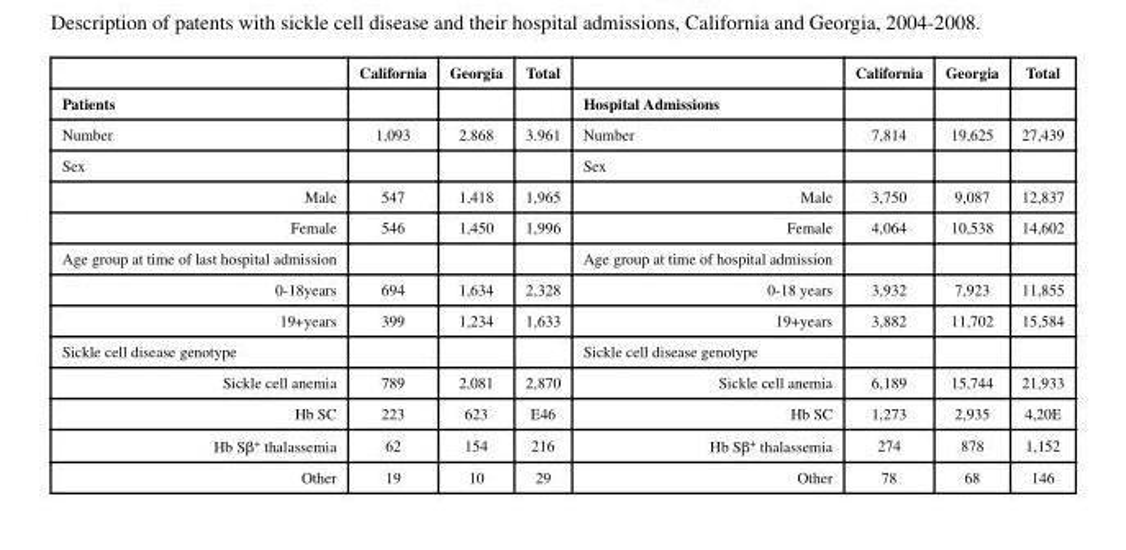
<table><thead><tr><td></td><td>California</td><td>Georgia</td><td>Total</td><td></td><td>California</td><td>Georgia</td><td>Total</td></tr></thead><tbody><tr><td>Patients</td><td></td><td></td><td></td><td>Hospital Admissions</td><td></td><td></td><td></td></tr><tr><td>Number</td><td>1,093</td><td>2.868</td><td>3.961</td><td>Number</td><td>7,814</td><td>19,625</td><td>27,439</td></tr><tr><td>Sex</td><td></td><td></td><td></td><td>Sex</td><td></td><td></td><td></td></tr><tr><td>Male</td><td>547</td><td>1,418</td><td>1,965</td><td>Male</td><td>3,750</td><td>9,087</td><td>12,837</td></tr><tr><td>Female</td><td>546</td><td>1,450</td><td>1,996</td><td>Female</td><td>4,064</td><td>10,538</td><td>14,602</td></tr><tr><td>Age group at time of last hospital admission</td><td></td><td></td><td></td><td>Age group at time of hospital admission</td><td></td><td></td><td></td></tr><tr><td>0-18years</td><td>694</td><td>1,634</td><td>2,328</td><td>0-18 years</td><td>3,932</td><td>7,923</td><td>11,855</td></tr><tr><td>19+years</td><td>399</td><td>1,234</td><td>1,633</td><td>19+years</td><td>3,882</td><td>11,702</td><td>15,584</td></tr><tr><td>Sickle cell disease genotype</td><td></td><td></td><td></td><td>Sickle cell disease genotype</td><td></td><td></td><td></td></tr><tr><td>Sickle cell anemia</td><td>789</td><td>2,081</td><td>2,870</td><td>Sickle cell anemia</td><td>6,189</td><td>15,744</td><td>21,933</td></tr><tr><td>Hb SC</td><td>223</td><td>623</td><td>E46</td><td>Hb SC</td><td>1,273</td><td>2,935</td><td>4,20E</td></tr><tr><td>Hb Sβ<sup>+</sup> thalassemia</td><td>62</td><td>154</td><td>216</td><td>Hb Sβ<sup>+</sup> thalassemia</td><td>274</td><td>878</td><td>1,152</td></tr><tr><td>Other</td><td>19</td><td>10</td><td>29</td><td>Other</td><td>78</td><td>68</td><td>146</td></tr></tbody></table>